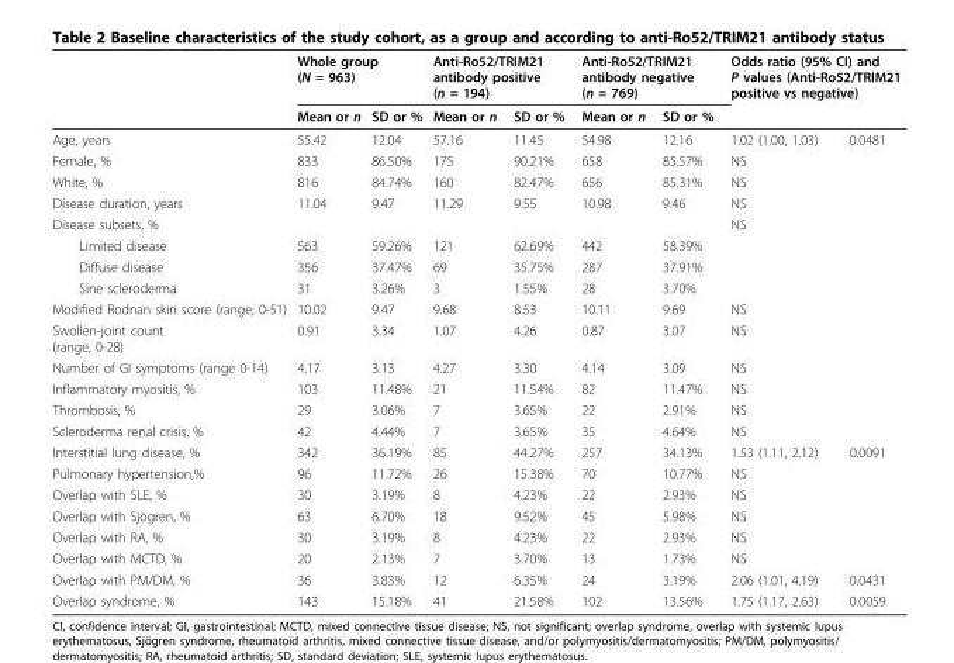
<table><thead><tr><td rowspan="2"></td><td colspan="2">Whole group (N = 963)</td><td colspan="2">Anti-Ro52/TRIM21 antibody positive (n = 194)</td><td colspan="2">Anti-Ro52/TRIM21 antibody negative (n = 769)</td><td colspan="2">Odds ratio (95% CI) and P values (Anti-Ro52/TRIM21 positive vs negative)</td></tr><tr><td>Mean or n</td><td>SD or %</td><td>Mean or n</td><td>SD or %</td><td>Mean or n</td><td>SD or %</td><td></td><td></td></tr></thead><tbody><tr><td>Age, years</td><td>55.42</td><td>12.04</td><td>57.16</td><td>11.45</td><td>54.98</td><td>12.16</td><td>1.02 (1.00, 1.03)</td><td>0.0481</td></tr><tr><td>Female, %</td><td>833</td><td>86.50%</td><td>175</td><td>90.21%</td><td>658</td><td>85.57%</td><td>NS</td><td></td></tr><tr><td>White, %</td><td>816</td><td>84.74%</td><td>160</td><td>82.47%</td><td>656</td><td>85.31%</td><td>NS</td><td></td></tr><tr><td>Disease duration, years</td><td>11.04</td><td>9.47</td><td>11.29</td><td>9.55</td><td>10.98</td><td>9.46</td><td>NS</td><td></td></tr><tr><td>Disease subsets, %</td><td></td><td></td><td></td><td></td><td></td><td></td><td>NS</td><td></td></tr><tr><td>Limited disease</td><td>563</td><td>59.26%</td><td>121</td><td>62.69%</td><td>442</td><td>58.39%</td><td></td><td></td></tr><tr><td>Diffuse disease</td><td>356</td><td>37.47%</td><td>69</td><td>35.75%</td><td>287</td><td>37.91%</td><td></td><td></td></tr><tr><td>Sine scleroderma</td><td>31</td><td>3.26%</td><td>3</td><td>1.55%</td><td>28</td><td>3.70%</td><td></td><td></td></tr><tr><td>Modified Rodnan skin score (range, 0-51)</td><td>10.02</td><td>9.47</td><td>9.68</td><td>8.53</td><td>10.11</td><td>9.69</td><td>NS</td><td></td></tr><tr><td>Swollen-joint count (range, 0-28)</td><td>0.91</td><td>3.34</td><td>1.07</td><td>4.26</td><td>0.87</td><td>3.07</td><td>NS</td><td></td></tr><tr><td>Number of GI symptoms (range 0-14)</td><td>4.17</td><td>3.13</td><td>4.27</td><td>3.30</td><td>4.14</td><td>3.09</td><td>NS</td><td></td></tr><tr><td>Inflammatory myositis, %</td><td>103</td><td>11.48%</td><td>21</td><td>11.54%</td><td>82</td><td>11.47%</td><td>NS</td><td></td></tr><tr><td>Thrombosis, %</td><td>29</td><td>3.06%</td><td>7</td><td>3.65%</td><td>22</td><td>2.91%</td><td>NS</td><td></td></tr><tr><td>Scleroderma renal crisis, %</td><td>42</td><td>4.44%</td><td>7</td><td>3.65%</td><td>35</td><td>4.64%</td><td>NS</td><td></td></tr><tr><td>Interstitial lung disease, %</td><td>342</td><td>36.19%</td><td>85</td><td>44.27%</td><td>257</td><td>34.13%</td><td>1.53 (1.11, 2.12)</td><td>0.0091</td></tr><tr><td>Pulmonary hypertension,%</td><td>96</td><td>11.72%</td><td>26</td><td>15.38%</td><td>70</td><td>10.77%</td><td>NS</td><td></td></tr><tr><td>Overlap with SLE, %</td><td>30</td><td>3.19%</td><td>8</td><td>4.23%</td><td>22</td><td>2.93%</td><td>NS</td><td></td></tr><tr><td>Overlap with Sjögren, %</td><td>63</td><td>6.70%</td><td>18</td><td>9.52%</td><td>45</td><td>5.98%</td><td>NS</td><td></td></tr><tr><td>Overlap with RA, %</td><td>30</td><td>3.19%</td><td>8</td><td>4.23%</td><td>22</td><td>2.93%</td><td>NS</td><td></td></tr><tr><td>Overlap with MCTD, %</td><td>20</td><td>2.13%</td><td>7</td><td>3.70%</td><td>13</td><td>1.73%</td><td>NS</td><td></td></tr><tr><td>Overlap with PM/DM, %</td><td>36</td><td>3.83%</td><td>12</td><td>6.35%</td><td>24</td><td>3.19%</td><td>2.06 (1.01, 4.19)</td><td>0.0431</td></tr><tr><td>Overlap syndrome, %</td><td>143</td><td>15.18%</td><td>41</td><td>21.58%</td><td>102</td><td>13.56%</td><td>1.75 (1.17, 2.63)</td><td>0.0059</td></tr></tbody></table>